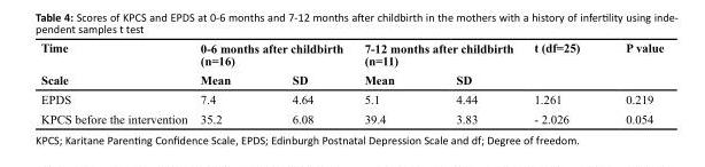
<table><thead><tr><td rowspan="2">Time Scale</td><td colspan="2">0-6 months after childbirth (n=16)</td><td colspan="2">7-12 months after childbirth (n=11)</td><td rowspan="2">t (df=25)</td><td rowspan="2">P value</td></tr><tr><td>Mean</td><td>SD</td><td>Mean</td><td>SD</td></tr></thead><tbody><tr><td>EPDS</td><td>7.4</td><td>4.64</td><td>5.1</td><td>4.44</td><td>1.261</td><td>0.219</td></tr><tr><td>KPCS before the intervention</td><td>35.2</td><td>6.08</td><td>39.4</td><td>3.83</td><td>- 2.026</td><td>0.054</td></tr></tbody></table>